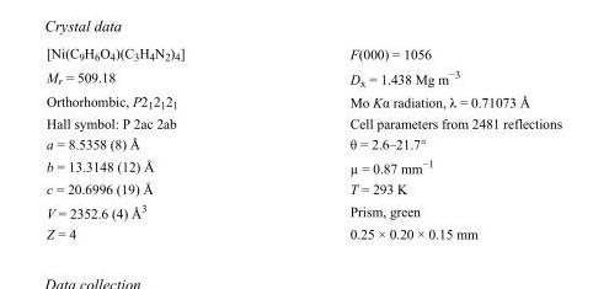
<table><tbody><tr><td>[Ni(C<sub>9</sub>H<sub>6</sub>O<sub>4</sub>)(C<sub>3</sub>H<sub>4</sub>N<sub>2</sub>)<sub>4</sub>]</td><td>F(000) = 1056</td></tr><tr><td>M<sub>r</sub> = 509.18</td><td>D<sub>x</sub> = 1.438 Mg m<sup>−3</sup></td></tr><tr><td>Orthorhombic, P2<sub>1</sub>2<sub>1</sub>2<sub>1</sub></td><td>Mo Kα radiation, λ = 0.71073 Å</td></tr><tr><td>Hall symbol: P 2ac 2ab</td><td>Cell parameters from 2481 reflections</td></tr><tr><td>a = 8.5358 (8) Å</td><td>θ = 2.6–21.7°</td></tr><tr><td>b = 13.3148 (12) Å</td><td>µ = 0.87 mm<sup>−1</sup></td></tr><tr><td>c = 20.6996 (19) Å</td><td>T = 293 K</td></tr><tr><td>V = 2352.6 (4) Å<sup>3</sup></td><td>Prism, green</td></tr><tr><td>Z = 4</td><td>0.25 × 0.20 × 0.15 mm</td></tr></tbody></table>